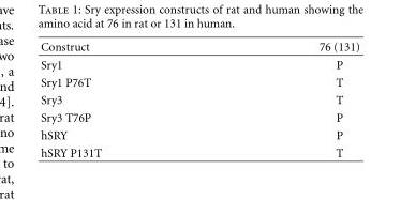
<table><thead><tr><td>Construct</td><td>76 (131)</td></tr></thead><tbody><tr><td>Sry1</td><td>P</td></tr><tr><td>Sry1 P76T</td><td>T</td></tr><tr><td>Sry3</td><td>T</td></tr><tr><td>Sry3 T76P</td><td>P</td></tr><tr><td>hSRY</td><td>P</td></tr><tr><td>hSRY P131T</td><td>T</td></tr></tbody></table>